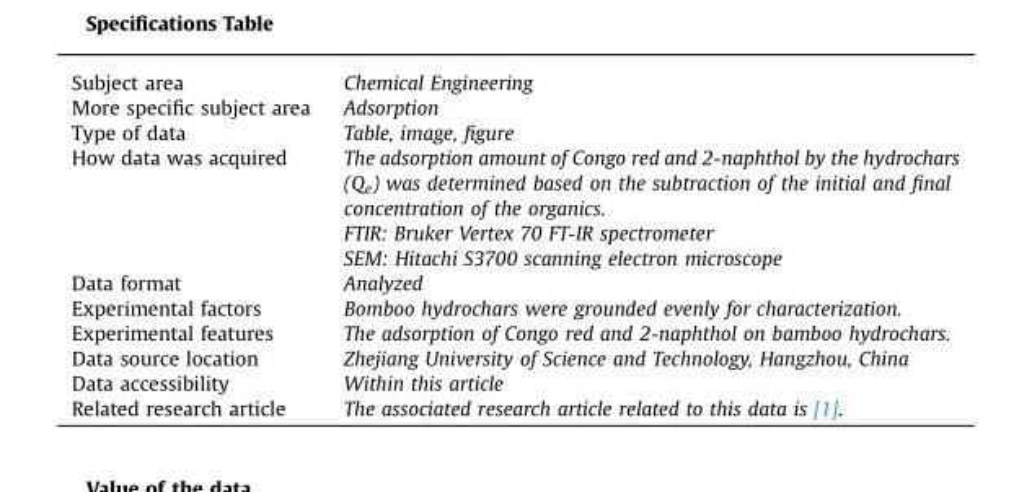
<table><tbody><tr><td>Subject area</td><td>Chemical Engineering</td></tr><tr><td>More specific subject area</td><td>Adsorption</td></tr><tr><td>Type of data</td><td>Table, image, figure</td></tr><tr><td rowspan="3">How data was acquired</td><td>The adsorption amount of Congo red and 2-naphthol by the hydrochars (Q<sub>e</sub>) was determined based on the subtraction of the initial and final concentration of the organics.</td></tr><tr><td>FTIR: Bruker Vertex 70 FT-IR spectrometer</td></tr><tr><td>SEM: Hitachi S3700 scanning electron microscope</td></tr><tr><td>Data format</td><td>Analyzed</td></tr><tr><td>Experimental factors</td><td>Bomboo hydrochars were grounded evenly for characterization.</td></tr><tr><td>Experimental features</td><td>The adsorption of Congo red and 2-naphthol on bamboo hydrochars.</td></tr><tr><td>Data source location</td><td>Zhejiang University of Science and Technology, Hangzhou, China</td></tr><tr><td>Data accessibility</td><td>Within this article</td></tr><tr><td>Related research article</td><td>The associated research article related to this data is [1].</td></tr></tbody></table>